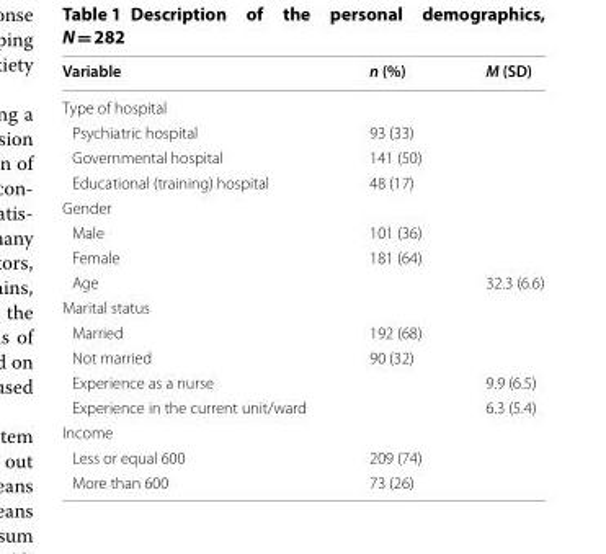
<table><thead><tr><td>Variable</td><td>n (%)</td><td>M (SD)</td></tr></thead><tbody><tr><td colspan="3">Type of hospital</td></tr><tr><td>Psychiatric hospital</td><td>93 (33)</td><td></td></tr><tr><td>Governmental hospital</td><td>141 (50)</td><td></td></tr><tr><td>Educational (training) hospital</td><td>48 (17)</td><td></td></tr><tr><td colspan="3">Gender</td></tr><tr><td>Male</td><td>101 (36)</td><td></td></tr><tr><td>Female</td><td>181 (64)</td><td></td></tr><tr><td>Age</td><td></td><td>32.3 (6.6)</td></tr><tr><td colspan="3">Marital status</td></tr><tr><td>Married</td><td>192 (68)</td><td></td></tr><tr><td>Not married</td><td>90 (32)</td><td></td></tr><tr><td>Experience as a nurse</td><td></td><td>9.9 (6.5)</td></tr><tr><td>Experience in the current unit/ward</td><td></td><td>6.3 (5.4)</td></tr><tr><td colspan="3">Income</td></tr><tr><td>Less or equal 600</td><td>209 (74)</td><td></td></tr><tr><td>More than 600</td><td>73 (26)</td><td></td></tr></tbody></table>